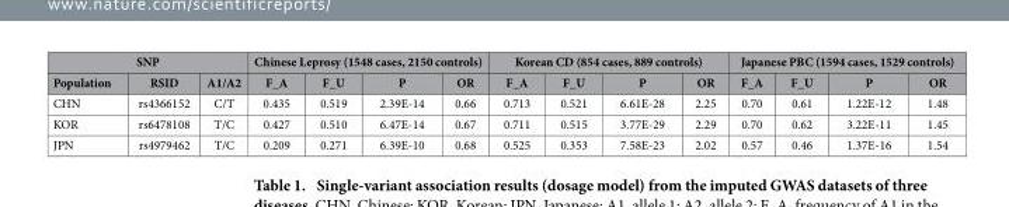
<table><thead><tr><td colspan="3">SNP</td><td colspan="4">Chinese Leprosy (1548 cases, 2150 controls)</td><td colspan="4">Korean CD (854 cases, 889 controls)</td><td colspan="4">Japanese PBC (1594 cases, 1529 controls)</td></tr><tr><td>Population</td><td>RSID</td><td>A1/A2</td><td>F_A</td><td>F_U</td><td>P</td><td>OR</td><td>F_A</td><td>F_U</td><td>P</td><td>OR</td><td>F_A</td><td>F_U</td><td>P</td><td>OR</td></tr></thead><tbody><tr><td>CHN</td><td>rs4366152</td><td>C/T</td><td>0.435</td><td>0.519</td><td>2.39E-14</td><td>0.66</td><td>0.713</td><td>0.521</td><td>6.61E-28</td><td>2.25</td><td>0.70</td><td>0.61</td><td>1.22E-12</td><td>1.48</td></tr><tr><td>KOR</td><td>rs6478108</td><td>T/C</td><td>0.427</td><td>0.510</td><td>6.47E-14</td><td>0.67</td><td>0.711</td><td>0.515</td><td>3.77E-29</td><td>2.29</td><td>0.70</td><td>0.62</td><td>3.22E-11</td><td>1.45</td></tr><tr><td>JPN</td><td>rs4979462</td><td>T/C</td><td>0.209</td><td>0.271</td><td>6.39E-10</td><td>0.68</td><td>0.525</td><td>0.353</td><td>7.58E-23</td><td>2.02</td><td>0.57</td><td>0.46</td><td>1.37E-16</td><td>1.54</td></tr></tbody></table>